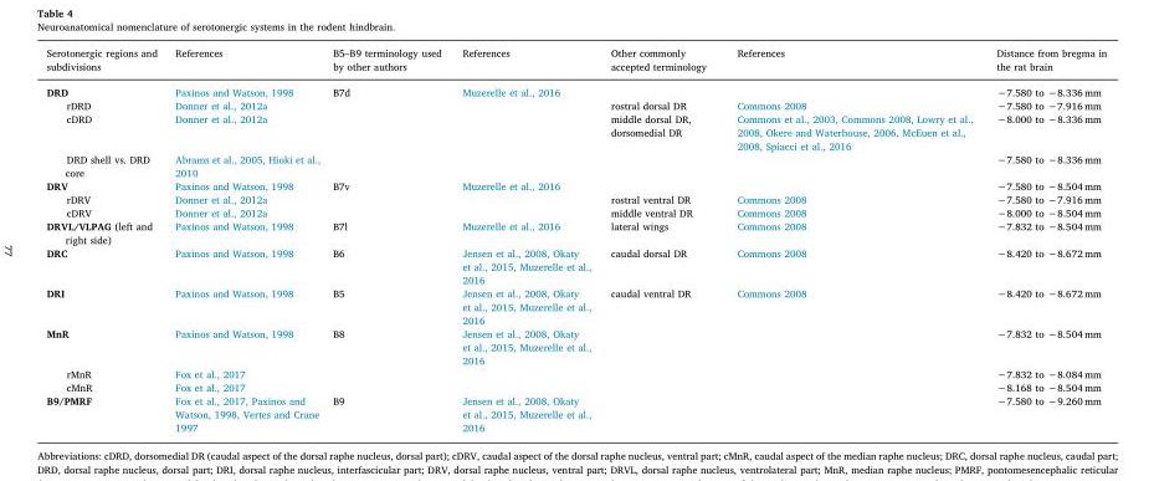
<table><thead><tr><td>Serotonergic regions and subdivisions</td><td>References</td><td>B5–B9 terminology used by other authors</td><td>References</td><td>Other commonly accepted terminology</td><td>References</td><td>Distance from bregma in the rat brain</td></tr></thead><tbody><tr><td>DRD</td><td>Paxinos and Watson, 1998</td><td>B7d</td><td>Muzerelle et al., 2016</td><td></td><td></td><td>−7.580 to −8.336 mm</td></tr><tr><td>rDRD</td><td>Donner et al., 2012a</td><td></td><td></td><td>rostral dorsal DR</td><td>Commons 2008</td><td>−7.580 to −7.916 mm</td></tr><tr><td>cDRD</td><td>Donner et al., 2012a</td><td></td><td></td><td>middle dorsal DR, dorsomedial DR</td><td>Commons et al., 2003, Commons 2008, Lowry et al., 2008, Okere and Waterhouse, 2006, McEuen et al., 2008, Spiacci et al., 2016</td><td>−8.000 to −8.336 mm</td></tr><tr><td>DRD shell vs. DRD core</td><td>Abrams et al., 2005, Hioki et al., 2010</td><td></td><td></td><td></td><td></td><td>−7.580 to −8.336 mm</td></tr><tr><td>DRV</td><td>Paxinos and Watson, 1998</td><td>B7v</td><td>Muzerelle et al., 2016</td><td></td><td></td><td>−7.580 to −8.504 mm</td></tr><tr><td>rDRV</td><td>Donner et al., 2012a</td><td></td><td></td><td>rostral ventral DR</td><td>Commons 2008</td><td>−7.580 to −7.916 mm</td></tr><tr><td>cDRV</td><td>Donner et al., 2012a</td><td></td><td></td><td>middle ventral DR</td><td>Commons 2008</td><td>−8.000 to −8.504 mm</td></tr><tr><td>DRVL/VLPAG (left and right side)</td><td>Paxinos and Watson, 1998</td><td>B7l</td><td>Muzerelle et al., 2016</td><td>lateral wings</td><td>Commons 2008</td><td>−7.832 to −8.504 mm</td></tr><tr><td>DRC</td><td>Paxinos and Watson, 1998</td><td>B6</td><td>Jensen et al., 2008, Okaty et al., 2015, Muzerelle et al., 2016</td><td>caudal dorsal DR</td><td>Commons 2008</td><td>−8.420 to −8.672 mm</td></tr><tr><td>DRI</td><td>Paxinos and Watson, 1998</td><td>B5</td><td>Jensen et al., 2008, Okaty et al., 2015, Muzerelle et al., 2016</td><td>caudal ventral DR</td><td>Commons 2008</td><td>−8.420 to −8.672 mm</td></tr><tr><td>MnR</td><td>Paxinos and Watson, 1998</td><td>B8</td><td>Jensen et al., 2008, Okaty et al., 2015, Muzerelle et al., 2016</td><td></td><td></td><td>−7.832 to −8.504 mm</td></tr><tr><td>rMnR</td><td>Fox et al., 2017</td><td></td><td></td><td></td><td></td><td>−7.832 to −8.084 mm</td></tr><tr><td>cMnR</td><td>Fox et al., 2017</td><td></td><td></td><td></td><td></td><td>−8.168 to −8.504 mm</td></tr><tr><td>B9/PMRF</td><td>Fox et al., 2017, Paxinos and Watson, 1998, Vertes and Crane 1997</td><td>B9</td><td>Jensen et al., 2008, Okaty et al., 2015, Muzerelle et al., 2016</td><td></td><td></td><td>−7.580 to −9.260 mm</td></tr></tbody></table>